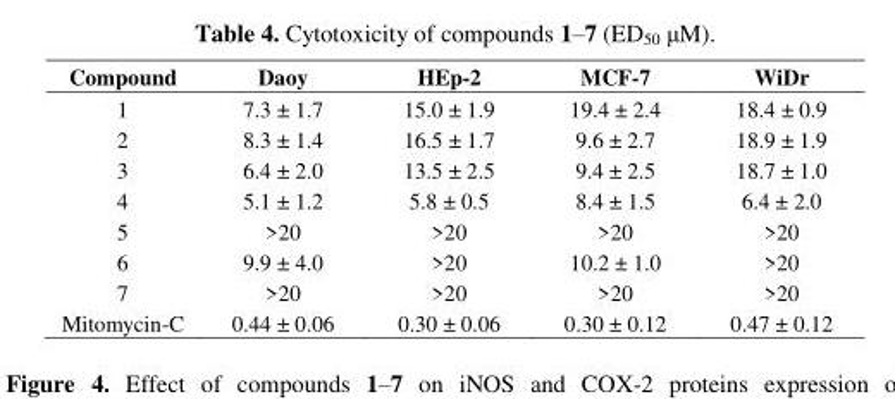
<table><thead><tr><td>Compound</td><td>Daoy</td><td>HEp-2</td><td>MCF-7</td><td>WiDr</td></tr></thead><tbody><tr><td>1</td><td>7.3 ± 1.7</td><td>15.0 ± 1.9</td><td>19.4 ± 2.4</td><td>18.4 ± 0.9</td></tr><tr><td>2</td><td>8.3 ± 1.4</td><td>16.5 ± 1.7</td><td>9.6 ± 2.7</td><td>18.9 ± 1.9</td></tr><tr><td>3</td><td>6.4 ± 2.0</td><td>13.5 ± 2.5</td><td>9.4 ± 2.5</td><td>18.7 ± 1.0</td></tr><tr><td>4</td><td>5.1 ± 1.2</td><td>5.8 ± 0.5</td><td>8.4 ± 1.5</td><td>6.4 ± 2.0</td></tr><tr><td>5</td><td>&gt;20</td><td>&gt;20</td><td>&gt;20</td><td>&gt;20</td></tr><tr><td>6</td><td>9.9 ± 4.0</td><td>&gt;20</td><td>10.2 ± 1.0</td><td>&gt;20</td></tr><tr><td>7</td><td>&gt;20</td><td>&gt;20</td><td>&gt;20</td><td>&gt;20</td></tr><tr><td>Mitomycin-C</td><td>0.44 ± 0.06</td><td>0.30 ± 0.06</td><td>0.30 ± 0.12</td><td>0.47 ± 0.12</td></tr></tbody></table>